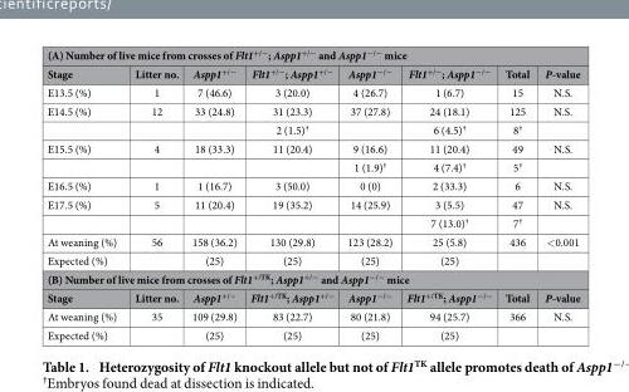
<table><thead><tr><td colspan="8">(A) Number of live mice from crosses of Flt1<sup>+/−</sup>; Aspp1<sup>+/−</sup> and Aspp1<sup>−/−</sup> mice</td></tr><tr><td>Stage</td><td>Litter no.</td><td>Aspp1<sup>+/−</sup></td><td>Flt1<sup>+/−</sup>; Aspp1<sup>+/−</sup></td><td>Aspp1<sup>−/−</sup></td><td>Flt1<sup>+/−</sup>; Aspp1<sup>−/−</sup></td><td>Total</td><td>P-value</td></tr></thead><tbody><tr><td>E13.5 (%)</td><td>1</td><td>7 (46.6)</td><td>3 (20.0)</td><td>4 (26.7)</td><td>1 (6.7)</td><td>15</td><td>N.S.</td></tr><tr><td rowspan="2">E14.5 (%)</td><td>12</td><td>33 (24.8)</td><td>31 (23.3)</td><td>37 (27.8)</td><td>24 (18.1)</td><td>125</td><td>N.S.</td></tr><tr><td></td><td></td><td>2 (1.5)†</td><td></td><td>6 (4.5)†</td><td>8†</td><td></td></tr><tr><td rowspan="2">E15.5 (%)</td><td>4</td><td>18 (33.3)</td><td>11 (20.4)</td><td>9 (16.6)</td><td>11 (20.4)</td><td>49</td><td>N.S.</td></tr><tr><td></td><td></td><td></td><td>1 (1.9)†</td><td>4 (7.4)†</td><td>5†</td><td></td></tr><tr><td>E16.5 (%)</td><td>1</td><td>1 (16.7)</td><td>3 (50.0)</td><td>0 (0)</td><td>2 (33.3)</td><td>6</td><td>N.S.</td></tr><tr><td rowspan="2">E17.5 (%)</td><td>5</td><td>11 (20.4)</td><td>19 (35.2)</td><td>14 (25.9)</td><td>3 (5.5)</td><td>47</td><td>N.S.</td></tr><tr><td></td><td></td><td></td><td></td><td>7 (13.0)†</td><td>7†</td><td></td></tr><tr><td>At weaning (%)</td><td>56</td><td>158 (36.2)</td><td>130 (29.8)</td><td>123 (28.2)</td><td>25 (5.8)</td><td>436</td><td>&lt; 0.001</td></tr><tr><td>Expected (%)</td><td></td><td>(25)</td><td>(25)</td><td>(25)</td><td>(25)</td><td></td><td></td></tr><tr><td colspan="8">(B) Number of live mice from crosses of Flt1<sup>+/TK</sup>; Aspp1<sup>+/−</sup> and Aspp1<sup>−/−</sup> mice</td></tr><tr><td>Stage</td><td>Litter no.</td><td>Aspp1<sup>+/−</sup></td><td>Flt1<sup>+/TK</sup>; Aspp1<sup>+/−</sup></td><td>Aspp1<sup>−/−</sup></td><td>Flt1<sup>+/TK</sup>; Aspp1<sup>−/−</sup></td><td>Total</td><td>P-value</td></tr><tr><td>At weaning (%)</td><td>35</td><td>109 (29.8)</td><td>83 (22.7)</td><td>80 (21.8)</td><td>94 (25.7)</td><td>366</td><td>N.S.</td></tr><tr><td>Expected (%)</td><td></td><td>(25)</td><td>(25)</td><td>(25)</td><td>(25)</td><td></td><td></td></tr></tbody></table>